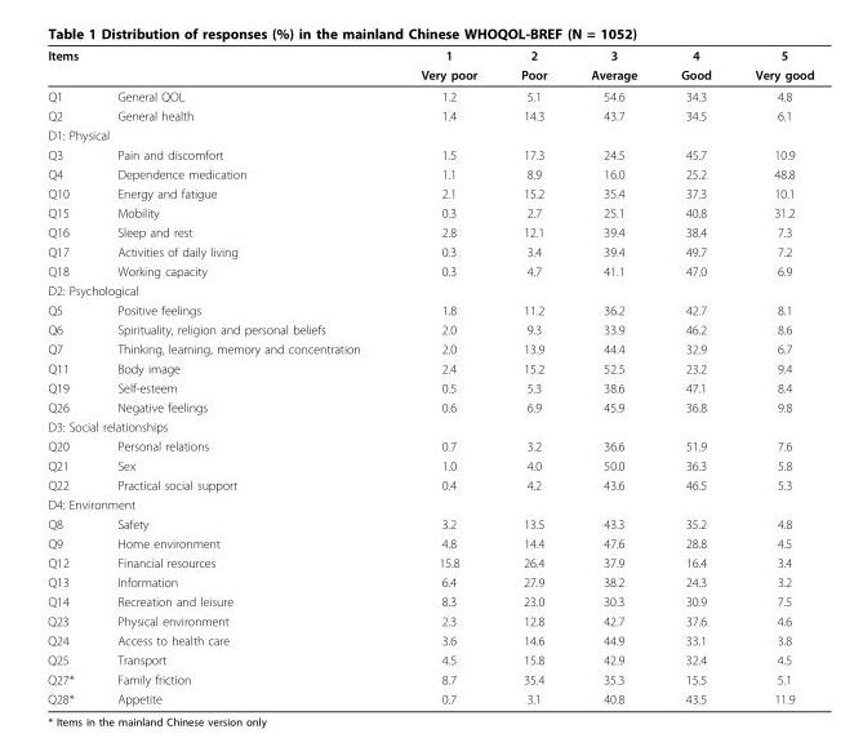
<table><tbody><tr><td colspan="2">Items</td><td>1</td><td>2</td><td>3</td><td>4</td><td>5</td></tr><tr><td></td><td></td><td>Very poor</td><td>Poor</td><td>Average</td><td>Good</td><td>Very good</td></tr><tr><td>Q1</td><td>General QOL</td><td>1.2</td><td>5.1</td><td>54.6</td><td>34.3</td><td>4.8</td></tr><tr><td>Q2</td><td>General health</td><td>1.4</td><td>14.3</td><td>43.7</td><td>34.5</td><td>6.1</td></tr><tr><td colspan="7">D1: Physical</td></tr><tr><td>Q3</td><td>Pain and discomfort</td><td>1.5</td><td>17.3</td><td>24.5</td><td>45.7</td><td>10.9</td></tr><tr><td>Q4</td><td>Dependence medication</td><td>1.1</td><td>8.9</td><td>16.0</td><td>25.2</td><td>48.8</td></tr><tr><td>Q10</td><td>Energy and fatigue</td><td>2.1</td><td>15.2</td><td>35.4</td><td>37.3</td><td>10.1</td></tr><tr><td>Q15</td><td>Mobility</td><td>0.3</td><td>2.7</td><td>25.1</td><td>40.8</td><td>31.2</td></tr><tr><td>Q16</td><td>Sleep and rest</td><td>2.8</td><td>12.1</td><td>39.4</td><td>38.4</td><td>7.3</td></tr><tr><td>Q17</td><td>Activities of daily living</td><td>0.3</td><td>3.4</td><td>39.4</td><td>49.7</td><td>7.2</td></tr><tr><td>Q18</td><td>Working capacity</td><td>0.3</td><td>4.7</td><td>41.1</td><td>47.0</td><td>6.9</td></tr><tr><td colspan="7">D2: Psychological</td></tr><tr><td>Q5</td><td>Positive feelings</td><td>1.8</td><td>11.2</td><td>36.2</td><td>42.7</td><td>8.1</td></tr><tr><td>Q6</td><td>Spirituality, religion and personal beliefs</td><td>2.0</td><td>9.3</td><td>33.9</td><td>46.2</td><td>8.6</td></tr><tr><td>Q7</td><td>Thinking, learning, memory and concentration</td><td>2.0</td><td>13.9</td><td>44.4</td><td>32.9</td><td>6.7</td></tr><tr><td>Q11</td><td>Body image</td><td>2.4</td><td>15.2</td><td>52.5</td><td>23.2</td><td>9.4</td></tr><tr><td>Q19</td><td>Self-esteem</td><td>0.5</td><td>5.3</td><td>38.6</td><td>47.1</td><td>8.4</td></tr><tr><td>Q26</td><td>Negative feelings</td><td>0.6</td><td>6.9</td><td>45.9</td><td>36.8</td><td>9.8</td></tr><tr><td colspan="7">D3: Social relationships</td></tr><tr><td>Q20</td><td>Personal relations</td><td>0.7</td><td>3.2</td><td>36.6</td><td>51.9</td><td>7.6</td></tr><tr><td>Q21</td><td>Sex</td><td>1.0</td><td>4.0</td><td>50.0</td><td>36.3</td><td>5.8</td></tr><tr><td>Q22</td><td>Practical social support</td><td>0.4</td><td>4.2</td><td>43.6</td><td>46.5</td><td>5.3</td></tr><tr><td colspan="7">D4: Environment</td></tr><tr><td>Q8</td><td>Safety</td><td>3.2</td><td>13.5</td><td>43.3</td><td>35.2</td><td>4.8</td></tr><tr><td>Q9</td><td>Home environment</td><td>4.8</td><td>14.4</td><td>47.6</td><td>28.8</td><td>4.5</td></tr><tr><td>Q12</td><td>Financial resources</td><td>15.8</td><td>26.4</td><td>37.9</td><td>16.4</td><td>3.4</td></tr><tr><td>Q13</td><td>Information</td><td>6.4</td><td>27.9</td><td>38.2</td><td>24.3</td><td>3.2</td></tr><tr><td>Q14</td><td>Recreation and leisure</td><td>8.3</td><td>23.0</td><td>30.3</td><td>30.9</td><td>7.5</td></tr><tr><td>Q23</td><td>Physical environment</td><td>2.3</td><td>12.8</td><td>42.7</td><td>37.6</td><td>4.6</td></tr><tr><td>Q24</td><td>Access to health care</td><td>3.6</td><td>14.6</td><td>44.9</td><td>33.1</td><td>3.8</td></tr><tr><td>Q25</td><td>Transport</td><td>4.5</td><td>15.8</td><td>42.9</td><td>32.4</td><td>4.5</td></tr><tr><td>Q27*</td><td>Family friction</td><td>8.7</td><td>35.4</td><td>35.3</td><td>15.5</td><td>5.1</td></tr><tr><td>Q28*</td><td>Appetite</td><td>0.7</td><td>3.1</td><td>40.8</td><td>43.5</td><td>11.9</td></tr></tbody></table>